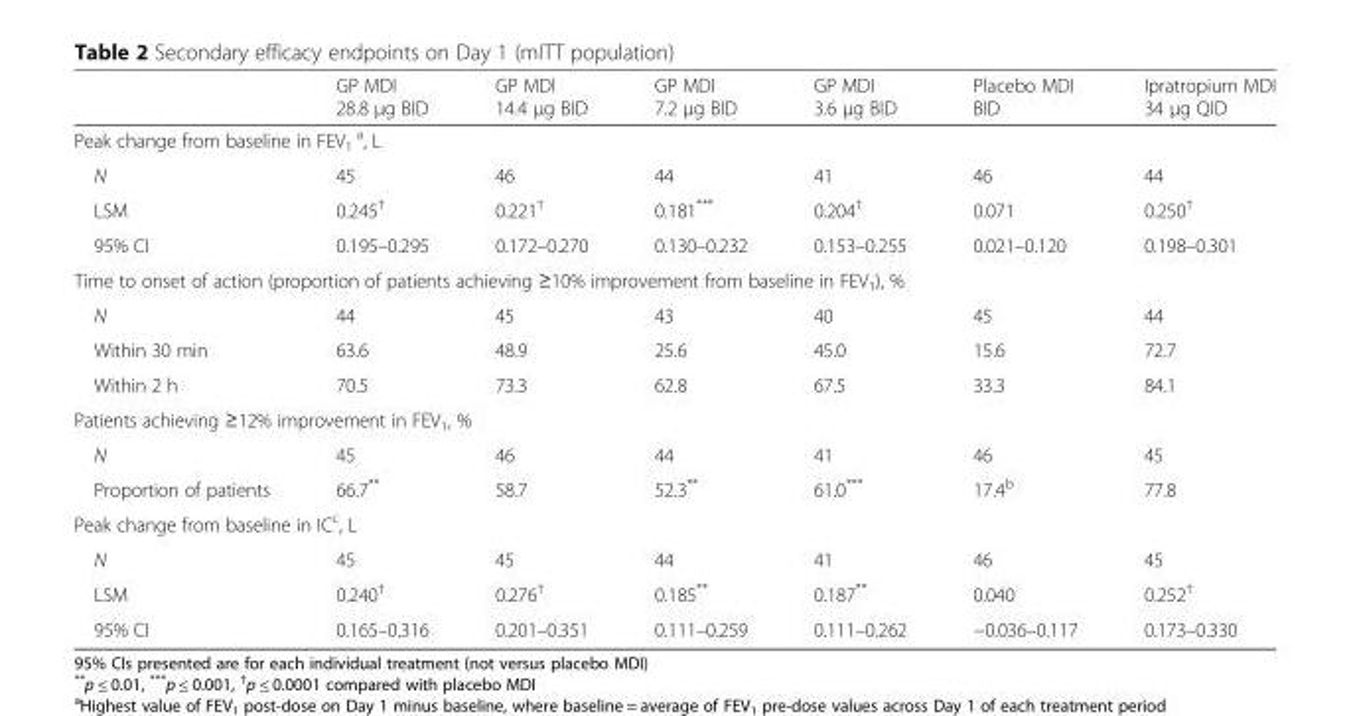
<table><thead><tr><td></td><td>GP MDI 28.8 μg BID</td><td>GP MDI 14.4 μg BID</td><td>GP MDI 7.2 μg BID</td><td>GP MDI 3.6 μg BID</td><td>Placebo MDI BID</td><td>Ipratropium MDI 34 μg QID</td></tr></thead><tbody><tr><td colspan="7">Peak change from baseline in FEV<sub>1</sub> <sup>a</sup>, L</td></tr><tr><td>N</td><td>45</td><td>46</td><td>44</td><td>41</td><td>46</td><td>44</td></tr><tr><td>LSM</td><td>0.245<sup>†</sup></td><td>0.221<sup>†</sup></td><td>0.181***</td><td>0.204<sup>†</sup></td><td>0.071</td><td>0.250<sup>†</sup></td></tr><tr><td>95% CI</td><td>0.195–0.295</td><td>0.172–0.270</td><td>0.130–0.232</td><td>0.153–0.255</td><td>0.021–0.120</td><td>0.198–0.301</td></tr><tr><td colspan="7">Time to onset of action (proportion of patients achieving ≥10% improvement from baseline in FEV<sub>1</sub>), %</td></tr><tr><td>N</td><td>44</td><td>45</td><td>43</td><td>40</td><td>45</td><td>44</td></tr><tr><td>Within 30 min</td><td>63.6</td><td>48.9</td><td>25.6</td><td>45.0</td><td>15.6</td><td>72.7</td></tr><tr><td>Within 2 h</td><td>70.5</td><td>73.3</td><td>62.8</td><td>67.5</td><td>33.3</td><td>84.1</td></tr><tr><td colspan="7">Patients achieving ≥12% improvement in FEV<sub>1</sub>, %</td></tr><tr><td>N</td><td>45</td><td>46</td><td>44</td><td>41</td><td>46</td><td>45</td></tr><tr><td>Proportion of patients</td><td>66.7**</td><td>58.7</td><td>52.3**</td><td>61.0***</td><td>17.4<sup>b</sup></td><td>77.8</td></tr><tr><td colspan="7">Peak change from baseline in IC<sup>c</sup>, L</td></tr><tr><td>N</td><td>45</td><td>45</td><td>44</td><td>41</td><td>46</td><td>45</td></tr><tr><td>LSM</td><td>0.240<sup>†</sup></td><td>0.276<sup>†</sup></td><td>0.185**</td><td>0.187**</td><td>0.040</td><td>0.252<sup>†</sup></td></tr><tr><td>95% CI</td><td>0.165–0.316</td><td>0.201–0.351</td><td>0.111–0.259</td><td>0.111–0.262</td><td>−0.036–0.117</td><td>0.173–0.330</td></tr></tbody></table>